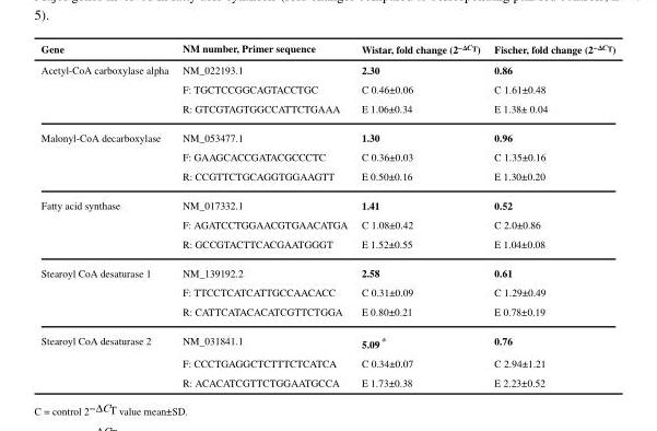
<table><thead><tr><td>Gene</td><td>NM number, Primer sequence</td><td>Wistar, fold change (2<sup>−ΔC<sub>T</sub></sup>)</td><td>Fischer, fold change (2<sup>−ΔC<sub>T</sub></sup>)</td></tr></thead><tbody><tr><td rowspan="3">Acetyl-CoA carboxylase alpha</td><td>NM_022193.1</td><td>2.30</td><td>0.86</td></tr><tr><td>F: TGCTCCGGCAGTACCTGC</td><td>C 0.46±0.06</td><td>C 1.61±0.48</td></tr><tr><td>R: GTCGTAGTGGCCATTCTGAAA</td><td>E 1.06±0.34</td><td>E 1.38± 0.04</td></tr><tr><td rowspan="3">Malonyl-CoA decarboxylase</td><td>NM_053477.1</td><td>1.30</td><td>0.96</td></tr><tr><td>F: GAAGCACCGATACGCCCTC</td><td>C 0.36±0.03</td><td>C 1.35±0.16</td></tr><tr><td>R: CCGTTCTGCAGGTGGAAGTT</td><td>E 0.50±0.16</td><td>E 1.30±0.20</td></tr><tr><td rowspan="3">Fatty acid synthase</td><td>NM_017332.1</td><td>1.41</td><td>0.52</td></tr><tr><td>F: AGATCCTGGAACGTGAACATGA</td><td>C 1.08±0.42</td><td>C 2.0±0.86</td></tr><tr><td>R: GCCGTACTTCACGAATGGGT</td><td>E 1.52±0.55</td><td>E 1.04±0.08</td></tr><tr><td rowspan="3">Stearoyl CoA desaturase 1</td><td>NM_139192.2</td><td>2.58</td><td>0.61</td></tr><tr><td>F: TTCCTCATCATTGCCAACACC</td><td>C 0.31±0.09</td><td>C 1.29±0.49</td></tr><tr><td>R: CATTCATACACATCGTTCTGGA</td><td>E 0.80±0.21</td><td>E 0.78±0.19</td></tr><tr><td rowspan="3">Stearoyl CoA desaturase 2</td><td>NM_031841.1</td><td>5.09*</td><td>0.76</td></tr><tr><td>F: CCCTGAGGCTCTTTCTCATCA</td><td>C 0.34±0.07</td><td>C 2.94±1.21</td></tr><tr><td>R: ACACATCGTTCTGGAATGCCA</td><td>E 1.73±0.38</td><td>E 2.23±0.52</td></tr></tbody></table>